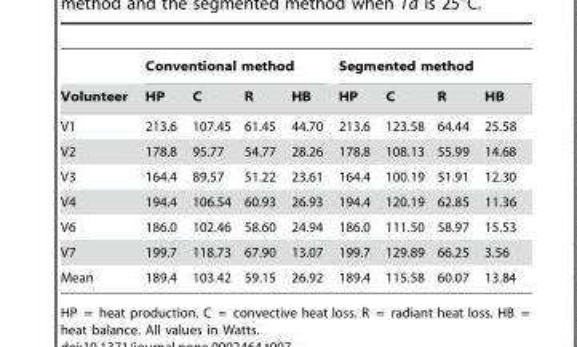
<table><thead><tr><td rowspan="2">Volunteer</td><td colspan="4">Conventional method</td><td colspan="4">Segmented method</td></tr><tr><td>HP</td><td>C</td><td>R</td><td>HB</td><td>HP</td><td>C</td><td>R</td><td>HB</td></tr></thead><tbody><tr><td>V1</td><td>213.6</td><td>107.45</td><td>61.45</td><td>44.70</td><td>213.6</td><td>123.58</td><td>64.44</td><td>25.58</td></tr><tr><td>V2</td><td>178.8</td><td>95.77</td><td>54.77</td><td>28.26</td><td>178.8</td><td>108.13</td><td>55.99</td><td>14.68</td></tr><tr><td>V3</td><td>164.4</td><td>89.57</td><td>51.22</td><td>23.61</td><td>164.4</td><td>100.19</td><td>51.91</td><td>12.30</td></tr><tr><td>V4</td><td>194.4</td><td>106.54</td><td>60.93</td><td>26.93</td><td>194.4</td><td>120.19</td><td>62.85</td><td>11.36</td></tr><tr><td>V6</td><td>186.0</td><td>102.46</td><td>58.60</td><td>24.94</td><td>186.0</td><td>111.50</td><td>58.97</td><td>15.53</td></tr><tr><td>V7</td><td>199.7</td><td>118.73</td><td>67.90</td><td>13.07</td><td>199.7</td><td>129.89</td><td>66.25</td><td>3.56</td></tr><tr><td>Mean</td><td>189.4</td><td>103.42</td><td>59.15</td><td>26.92</td><td>189.4</td><td>115.58</td><td>60.07</td><td>13.84</td></tr></tbody></table>